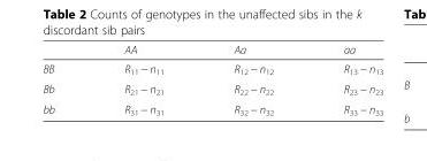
<table><thead><tr><td></td><td>AA</td><td>Aa</td><td>aa</td></tr></thead><tbody><tr><td>BB</td><td>R<sub>11</sub> − n<sub>11</sub></td><td>R<sub>12</sub> − n<sub>12</sub></td><td>R<sub>13</sub> − n<sub>13</sub></td></tr><tr><td>Bb</td><td>R<sub>21</sub> − n<sub>21</sub></td><td>R<sub>22</sub> − n<sub>22</sub></td><td>R<sub>23</sub> − n<sub>23</sub></td></tr><tr><td>bb</td><td>R<sub>31</sub> − n<sub>31</sub></td><td>R<sub>32</sub> − n<sub>32</sub></td><td>R<sub>33</sub> − n<sub>33</sub></td></tr></tbody></table>